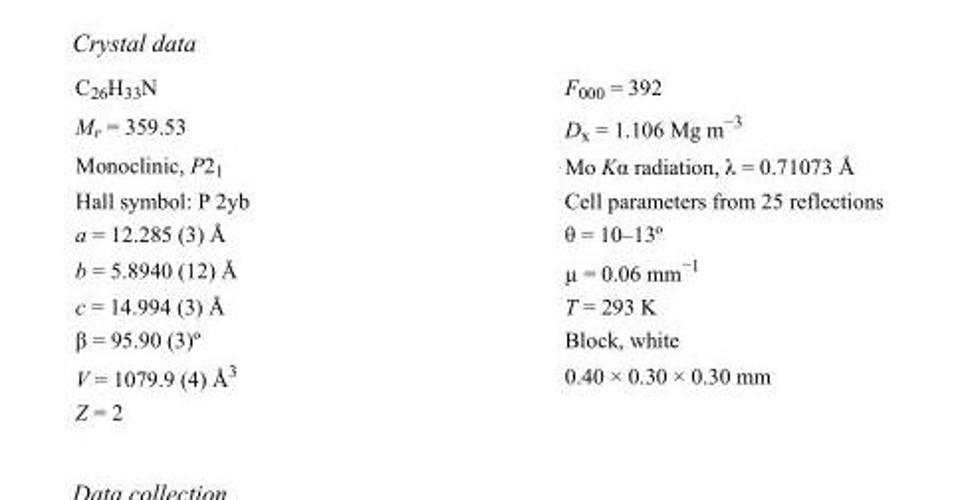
<table><tbody><tr><td>C<sub>26</sub>H<sub>33</sub>N</td><td>F000 = 392</td></tr><tr><td>M<sub>r</sub> = 359.53</td><td>D<sub>x</sub> = 1.106 Mg m<sup>−3</sup></td></tr><tr><td>Monoclinic, P2<sub>1</sub></td><td>Mo Kα radiation, λ = 0.71073 Å</td></tr><tr><td>Hall symbol: P 2yb</td><td>Cell parameters from 25 reflections</td></tr><tr><td>a = 12.285 (3) Å</td><td>θ = 10–13º</td></tr><tr><td>b = 5.8940 (12) Å</td><td>µ = 0.06 mm<sup>−1</sup></td></tr><tr><td>c = 14.994 (3) Å</td><td>T = 293 K</td></tr><tr><td>β = 95.90 (3)º</td><td>Block, white</td></tr><tr><td>V = 1079.9 (4) Å<sup>3</sup></td><td>0.40 × 0.30 × 0.30 mm</td></tr><tr><td>Z = 2</td><td></td></tr></tbody></table>